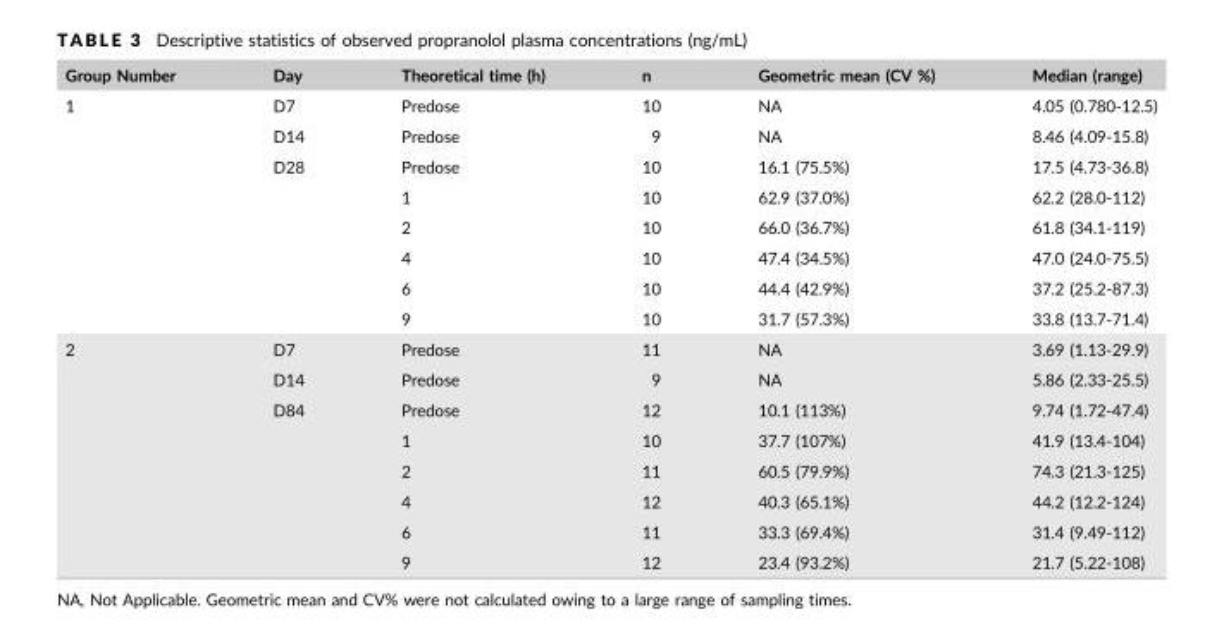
<table><thead><tr><td>Group Number</td><td>Day</td><td>Theoretical time (h)</td><td>n</td><td>Geometric mean (CV %)</td><td>Median (range)</td></tr></thead><tbody><tr><td rowspan="8">1</td><td>D7</td><td>Predose</td><td>10</td><td>NA</td><td>4.05 (0.780-12.5)</td></tr><tr><td>D14</td><td>Predose</td><td>9</td><td>NA</td><td>8.46 (4.09-15.8)</td></tr><tr><td>D28</td><td>Predose</td><td>10</td><td>16.1 (75.5%)</td><td>17.5 (4.73-36.8)</td></tr><tr><td></td><td>1</td><td>10</td><td>62.9 (37.0%)</td><td>62.2 (28.0-112)</td></tr><tr><td></td><td>2</td><td>10</td><td>66.0 (36.7%)</td><td>61.8 (34.1-119)</td></tr><tr><td></td><td>4</td><td>10</td><td>47.4 (34.5%)</td><td>47.0 (24.0-75.5)</td></tr><tr><td></td><td>6</td><td>10</td><td>44.4 (42.9%)</td><td>37.2 (25.2-87.3)</td></tr><tr><td></td><td>9</td><td>10</td><td>31.7 (57.3%)</td><td>33.8 (13.7-71.4)</td></tr><tr><td rowspan="8">2</td><td>D7</td><td>Predose</td><td>11</td><td>NA</td><td>3.69 (1.13-29.9)</td></tr><tr><td>D14</td><td>Predose</td><td>9</td><td>NA</td><td>5.86 (2.33-25.5)</td></tr><tr><td>D84</td><td>Predose</td><td>12</td><td>10.1 (113%)</td><td>9.74 (1.72-47.4)</td></tr><tr><td></td><td>1</td><td>10</td><td>37.7 (107%)</td><td>41.9 (13.4-104)</td></tr><tr><td></td><td>2</td><td>11</td><td>60.5 (79.9%)</td><td>74.3 (21.3-125)</td></tr><tr><td></td><td>4</td><td>12</td><td>40.3 (65.1%)</td><td>44.2 (12.2-124)</td></tr><tr><td></td><td>6</td><td>11</td><td>33.3 (69.4%)</td><td>31.4 (9.49-112)</td></tr><tr><td></td><td>9</td><td>12</td><td>23.4 (93.2%)</td><td>21.7 (5.22-108)</td></tr></tbody></table>